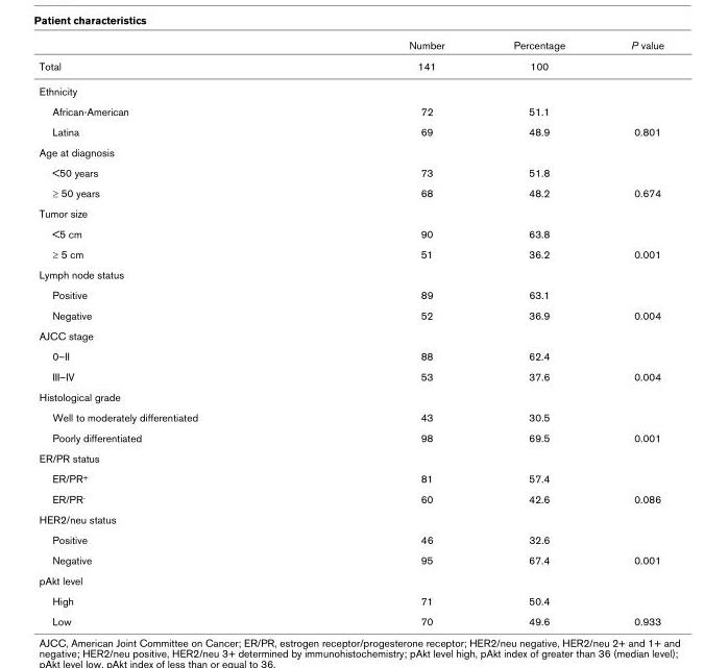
<table><thead><tr><td></td><td>Number</td><td>Percentage</td><td>P value</td></tr></thead><tbody><tr><td>Total</td><td>141</td><td>100</td><td></td></tr><tr><td colspan="4">Ethnicity</td></tr><tr><td>African-American</td><td>72</td><td>51.1</td><td></td></tr><tr><td>Latina</td><td>69</td><td>48.9</td><td>0.801</td></tr><tr><td colspan="4">Age at diagnosis</td></tr><tr><td>&lt;50 years</td><td>73</td><td>51.8</td><td></td></tr><tr><td>≥ 50 years</td><td>68</td><td>48.2</td><td>0.674</td></tr><tr><td colspan="4">Tumor size</td></tr><tr><td>&lt;5 cm</td><td>90</td><td>63.8</td><td></td></tr><tr><td>≥ 5 cm</td><td>51</td><td>36.2</td><td>0.001</td></tr><tr><td colspan="4">Lymph node status</td></tr><tr><td>Positive</td><td>89</td><td>63.1</td><td></td></tr><tr><td>Negative</td><td>52</td><td>36.9</td><td>0.004</td></tr><tr><td colspan="4">AJCC stage</td></tr><tr><td>0–II</td><td>88</td><td>62.4</td><td></td></tr><tr><td>III–IV</td><td>53</td><td>37.6</td><td>0.004</td></tr><tr><td colspan="4">Histological grade</td></tr><tr><td>Well to moderately differentiated</td><td>43</td><td>30.5</td><td></td></tr><tr><td>Poorly differentiated</td><td>98</td><td>69.5</td><td>0.001</td></tr><tr><td colspan="4">ER/PR status</td></tr><tr><td>ER/PR<sup>+</sup></td><td>81</td><td>57.4</td><td></td></tr><tr><td>ER/PR<sup>-</sup></td><td>60</td><td>42.6</td><td>0.086</td></tr><tr><td colspan="4">HER2/neu status</td></tr><tr><td>Positive</td><td>46</td><td>32.6</td><td></td></tr><tr><td>Negative</td><td>95</td><td>67.4</td><td>0.001</td></tr><tr><td colspan="4">pAkt level</td></tr><tr><td>High</td><td>71</td><td>50.4</td><td></td></tr><tr><td>Low</td><td>70</td><td>49.6</td><td>0.933</td></tr></tbody></table>